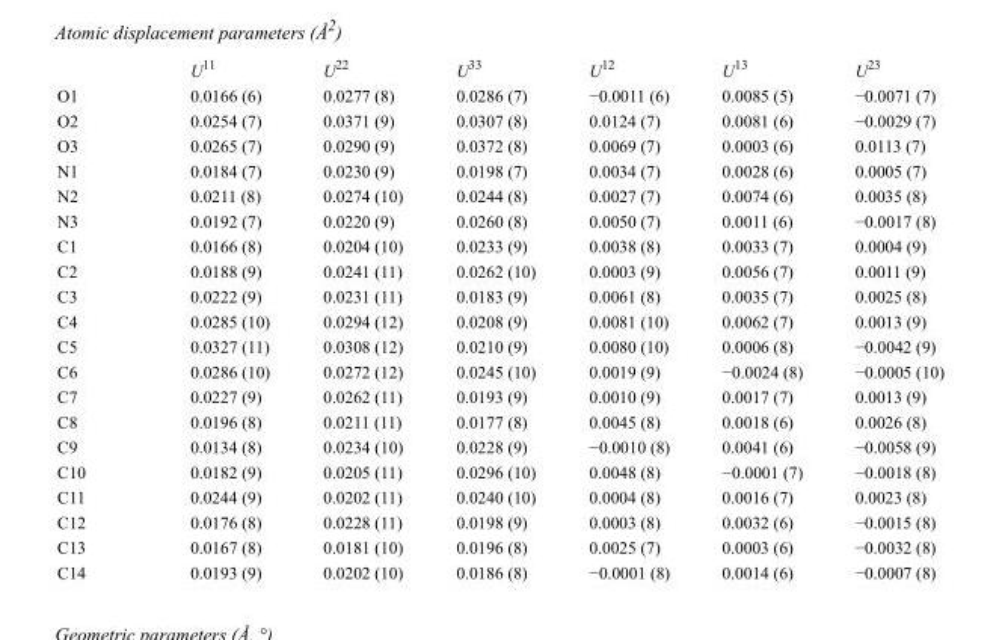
<table><thead><tr><td></td><td>U<sup>11</sup></td><td>U<sup>22</sup></td><td>U<sup>33</sup></td><td>U<sup>12</sup></td><td>U<sup>13</sup></td><td>U<sup>23</sup></td></tr></thead><tbody><tr><td>O1</td><td>0.0166 (6)</td><td>0.0277 (8)</td><td>0.0286 (7)</td><td>−0.0011 (6)</td><td>0.0085 (5)</td><td>−0.0071 (7)</td></tr><tr><td>O2</td><td>0.0254 (7)</td><td>0.0371 (9)</td><td>0.0307 (8)</td><td>0.0124 (7)</td><td>0.0081 (6)</td><td>−0.0029 (7)</td></tr><tr><td>O3</td><td>0.0265 (7)</td><td>0.0290 (9)</td><td>0.0372 (8)</td><td>0.0069 (7)</td><td>0.0003 (6)</td><td>0.0113 (7)</td></tr><tr><td>N1</td><td>0.0184 (7)</td><td>0.0230 (9)</td><td>0.0198 (7)</td><td>0.0034 (7)</td><td>0.0028 (6)</td><td>0.0005 (7)</td></tr><tr><td>N2</td><td>0.0211 (8)</td><td>0.0274 (10)</td><td>0.0244 (8)</td><td>0.0027 (7)</td><td>0.0074 (6)</td><td>0.0035 (8)</td></tr><tr><td>N3</td><td>0.0192 (7)</td><td>0.0220 (9)</td><td>0.0260 (8)</td><td>0.0050 (7)</td><td>0.0011 (6)</td><td>−0.0017 (8)</td></tr><tr><td>C1</td><td>0.0166 (8)</td><td>0.0204 (10)</td><td>0.0233 (9)</td><td>0.0038 (8)</td><td>0.0033 (7)</td><td>0.0004 (9)</td></tr><tr><td>C2</td><td>0.0188 (9)</td><td>0.0241 (11)</td><td>0.0262 (10)</td><td>0.0003 (9)</td><td>0.0056 (7)</td><td>0.0011 (9)</td></tr><tr><td>C3</td><td>0.0222 (9)</td><td>0.0231 (11)</td><td>0.0183 (9)</td><td>0.0061 (8)</td><td>0.0035 (7)</td><td>0.0025 (8)</td></tr><tr><td>C4</td><td>0.0285 (10)</td><td>0.0294 (12)</td><td>0.0208 (9)</td><td>0.0081 (10)</td><td>0.0062 (7)</td><td>0.0013 (9)</td></tr><tr><td>C5</td><td>0.0327 (11)</td><td>0.0308 (12)</td><td>0.0210 (9)</td><td>0.0080 (10)</td><td>0.0006 (8)</td><td>−0.0042 (9)</td></tr><tr><td>C6</td><td>0.0286 (10)</td><td>0.0272 (12)</td><td>0.0245 (10)</td><td>0.0019 (9)</td><td>−0.0024 (8)</td><td>−0.0005 (10)</td></tr><tr><td>C7</td><td>0.0227 (9)</td><td>0.0262 (11)</td><td>0.0193 (9)</td><td>0.0010 (9)</td><td>0.0017 (7)</td><td>0.0013 (9)</td></tr><tr><td>C8</td><td>0.0196 (8)</td><td>0.0211 (11)</td><td>0.0177 (8)</td><td>0.0045 (8)</td><td>0.0018 (6)</td><td>0.0026 (8)</td></tr><tr><td>C9</td><td>0.0134 (8)</td><td>0.0234 (10)</td><td>0.0228 (9)</td><td>−0.0010 (8)</td><td>0.0041 (6)</td><td>−0.0058 (9)</td></tr><tr><td>C10</td><td>0.0182 (9)</td><td>0.0205 (11)</td><td>0.0296 (10)</td><td>0.0048 (8)</td><td>−0.0001 (7)</td><td>−0.0018 (8)</td></tr><tr><td>C11</td><td>0.0244 (9)</td><td>0.0202 (11)</td><td>0.0240 (10)</td><td>0.0004 (8)</td><td>0.0016 (7)</td><td>0.0023 (8)</td></tr><tr><td>C12</td><td>0.0176 (8)</td><td>0.0228 (11)</td><td>0.0198 (9)</td><td>0.0003 (8)</td><td>0.0032 (6)</td><td>−0.0015 (8)</td></tr><tr><td>C13</td><td>0.0167 (8)</td><td>0.0181 (10)</td><td>0.0196 (8)</td><td>0.0025 (7)</td><td>0.0003 (6)</td><td>−0.0032 (8)</td></tr><tr><td>C14</td><td>0.0193 (9)</td><td>0.0202 (10)</td><td>0.0186 (8)</td><td>−0.0001 (8)</td><td>0.0014 (6)</td><td>−0.0007 (8)</td></tr></tbody></table>